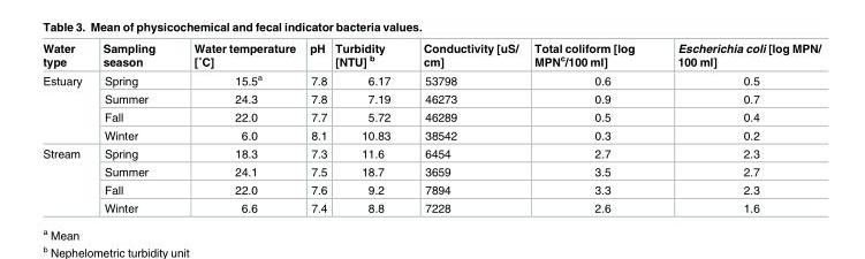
<table><thead><tr><td>Water type</td><td>Sampling season</td><td>Water temperature [˚C]</td><td>pH</td><td>Turbidity [NTU] <sup>b</sup></td><td>Conductivity [uS/ cm]</td><td>Total coliform [log MPN<sup>c</sup>/100 ml]</td><td>Escherichia coli [log MPN/ 100 ml]</td></tr></thead><tbody><tr><td rowspan="4">Estuary</td><td>Spring</td><td>15.5<sup>a</sup></td><td>7.8</td><td>6.17</td><td>53798</td><td>0.6</td><td>0.5</td></tr><tr><td>Summer</td><td>24.3</td><td>7.8</td><td>7.19</td><td>46273</td><td>0.9</td><td>0.7</td></tr><tr><td>Fall</td><td>22.0</td><td>7.7</td><td>5.72</td><td>46289</td><td>0.5</td><td>0.4</td></tr><tr><td>Winter</td><td>6.0</td><td>8.1</td><td>10.83</td><td>38542</td><td>0.3</td><td>0.2</td></tr><tr><td rowspan="4">Stream</td><td>Spring</td><td>18.3</td><td>7.3</td><td>11.6</td><td>6454</td><td>2.7</td><td>2.3</td></tr><tr><td>Summer</td><td>24.1</td><td>7.5</td><td>18.7</td><td>3659</td><td>3.5</td><td>2.7</td></tr><tr><td>Fall</td><td>22.0</td><td>7.6</td><td>9.2</td><td>7894</td><td>3.3</td><td>2.3</td></tr><tr><td>Winter</td><td>6.6</td><td>7.4</td><td>8.8</td><td>7228</td><td>2.6</td><td>1.6</td></tr></tbody></table>